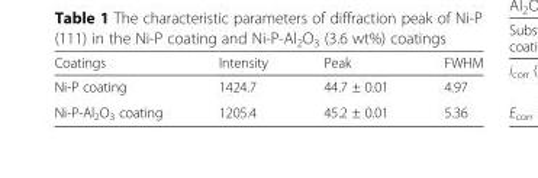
<table><thead><tr><td>Coatings</td><td>Intensity</td><td>Peak</td><td>FWHM</td></tr></thead><tbody><tr><td>Ni-P coating</td><td>1424.7</td><td>44.7 ± 0.01</td><td>4.97</td></tr><tr><td>Ni-P-Al<sub>2</sub>O<sub>3</sub> coating</td><td>1205.4</td><td>45.2 ± 0.01</td><td>5.36</td></tr></tbody></table>